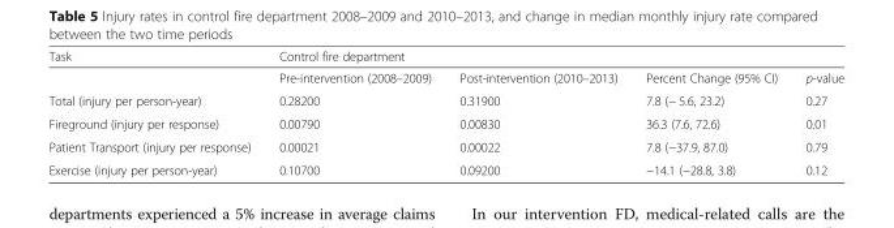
<table><thead><tr><td rowspan="2">Task</td><td colspan="4">Control fire department</td></tr><tr><td>Pre-intervention (2008–2009)</td><td>Post-intervention (2010–2013)</td><td>Percent Change (95% CI)</td><td>p-value</td></tr></thead><tbody><tr><td>Total (injury per person-year)</td><td>0.28200</td><td>0.31900</td><td>7.8 (− 5.6, 23.2)</td><td>0.27</td></tr><tr><td>Fireground (injury per response)</td><td>0.00790</td><td>0.00830</td><td>36.3 (7.6, 72.6)</td><td>0.01</td></tr><tr><td>Patient Transport (injury per response)</td><td>0.00021</td><td>0.00022</td><td>7.8 (−37.9, 87.0)</td><td>0.79</td></tr><tr><td>Exercise (injury per person-year)</td><td>0.10700</td><td>0.09200</td><td>−14.1 (−28.8, 3.8)</td><td>0.12</td></tr></tbody></table>